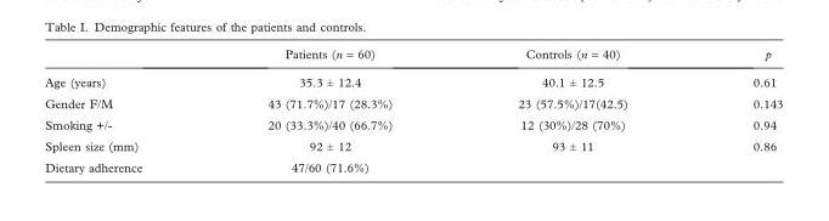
<table><thead><tr><td></td><td>Patients (n = 60)</td><td>Controls (n = 40)</td><td>p</td></tr></thead><tbody><tr><td>Age (years)</td><td>35.3 ± 12.4</td><td>40.1 ± 12.5</td><td>0.61</td></tr><tr><td>Gender F/M</td><td>43 (71.7%)/17 (28.3%)</td><td>23 (57.5%)/17(42.5)</td><td>0.143</td></tr><tr><td>Smoking +/-</td><td>20 (33.3%)/40 (66.7%)</td><td>12 (30%)/28 (70%)</td><td>0.94</td></tr><tr><td>Spleen size (mm)</td><td>92 ± 12</td><td>93 ± 11</td><td>0.86</td></tr><tr><td>Dietary adherence</td><td>47/60 (71.6%)</td><td></td><td></td></tr></tbody></table>